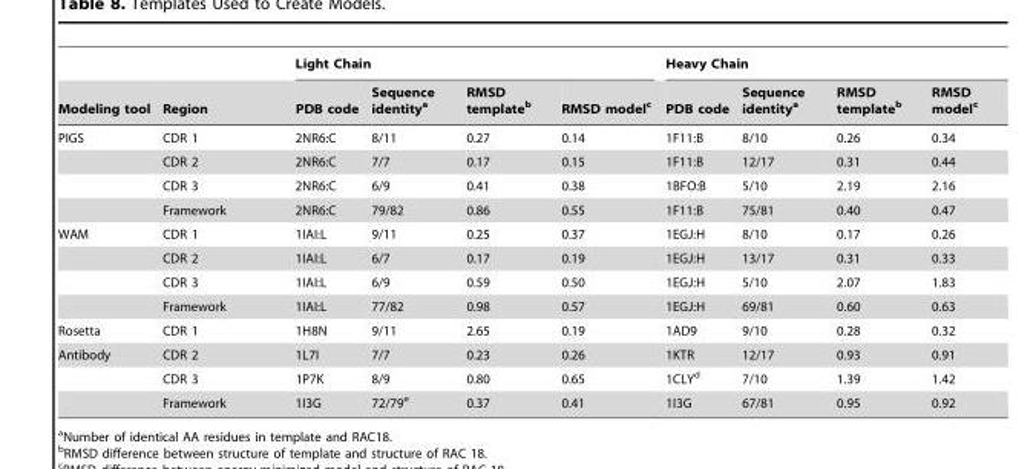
<table><thead><tr><td rowspan="2">Modeling tool</td><td rowspan="2">Region</td><td colspan="4">Light Chain</td><td colspan="4">Heavy Chain</td></tr><tr><td>PDB code</td><td>Sequence identity<sup>a</sup></td><td>RMSD template<sup>b</sup></td><td>RMSD model<sup>c</sup></td><td>PDB code</td><td>Sequence identity<sup>a</sup></td><td>RMSD template<sup>b</sup></td><td>RMSD model<sup>c</sup></td></tr></thead><tbody><tr><td rowspan="4">PIGS</td><td>CDR 1</td><td>2NR6:C</td><td>8/11</td><td>0.27</td><td>0.14</td><td>1F11:B</td><td>8/10</td><td>0.26</td><td>0.34</td></tr><tr><td>CDR 2</td><td>2NR6:C</td><td>7/7</td><td>0.17</td><td>0.15</td><td>1F11:B</td><td>12/17</td><td>0.31</td><td>0.44</td></tr><tr><td>CDR 3</td><td>2NR6:C</td><td>6/9</td><td>0.41</td><td>0.38</td><td>1BFO:B</td><td>5/10</td><td>2.19</td><td>2.16</td></tr><tr><td>Framework</td><td>2NR6:C</td><td>79/82</td><td>0.86</td><td>0.55</td><td>1F11:B</td><td>75/81</td><td>0.40</td><td>0.47</td></tr><tr><td rowspan="4">WAM</td><td>CDR 1</td><td>1IAI:L</td><td>9/11</td><td>0.25</td><td>0.37</td><td>1EGJ:H</td><td>8/10</td><td>0.17</td><td>0.26</td></tr><tr><td>CDR 2</td><td>1IAI:L</td><td>6/7</td><td>0.17</td><td>0.19</td><td>1EGJ:H</td><td>13/17</td><td>0.31</td><td>0.33</td></tr><tr><td>CDR 3</td><td>1IAI:L</td><td>6/9</td><td>0.59</td><td>0.50</td><td>1EGJ:H</td><td>5/10</td><td>2.07</td><td>1.83</td></tr><tr><td>Framework</td><td>1IAI:L</td><td>77/82</td><td>0.98</td><td>0.57</td><td>1EGJ:H</td><td>69/81</td><td>0.60</td><td>0.63</td></tr><tr><td>Rosetta</td><td>CDR 1</td><td>1H8N</td><td>9/11</td><td>2.65</td><td>0.19</td><td>1AD9</td><td>9/10</td><td>0.28</td><td>0.32</td></tr><tr><td rowspan="3">Antibody</td><td>CDR 2</td><td>1L7I</td><td>7/7</td><td>0.23</td><td>0.26</td><td>1KTR</td><td>12/17</td><td>0.93</td><td>0.91</td></tr><tr><td>CDR 3</td><td>1P7K</td><td>8/9</td><td>0.80</td><td>0.65</td><td>1CLY<sup>d</sup></td><td>7/10</td><td>1.39</td><td>1.42</td></tr><tr><td>Framework</td><td>1I3G</td><td>72/79<sup>e</sup></td><td>0.37</td><td>0.41</td><td>1I3G</td><td>67/81</td><td>0.95</td><td>0.92</td></tr></tbody></table>